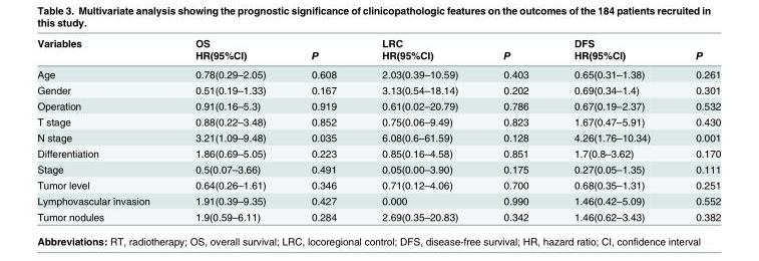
<table><thead><tr><td rowspan="2">Variables</td><td rowspan="2">OS HR(95%CI)</td><td rowspan="2">P</td><td rowspan="2">LRC HR(95%CI)</td><td rowspan="2">P</td><td rowspan="2">DFS HR(95%CI)</td><td rowspan="2">P</td></tr><tr></tr></thead><tbody><tr><td>Age</td><td>0.78(0.29–2.05)</td><td>0.608</td><td>2.03(0.39–10.59)</td><td>0.403</td><td>0.65(0.31–1.38)</td><td>0.261</td></tr><tr><td>Gender</td><td>0.51(0.19–1.33)</td><td>0.167</td><td>3.13(0.54–18.14)</td><td>0.202</td><td>0.69(0.34–1.4)</td><td>0.301</td></tr><tr><td>Operation</td><td>0.91(0.16–5.3)</td><td>0.919</td><td>0.61(0.02–20.79)</td><td>0.786</td><td>0.67(0.19–2.37)</td><td>0.532</td></tr><tr><td>T stage</td><td>0.88(0.22–3.48)</td><td>0.852</td><td>0.75(0.06–9.49)</td><td>0.823</td><td>1.67(0.47–5.91)</td><td>0.430</td></tr><tr><td>N stage</td><td>3.21(1.09–9.48)</td><td>0.035</td><td>6.08(0.6–61.59)</td><td>0.128</td><td>4.26(1.76–10.34)</td><td>0.001</td></tr><tr><td>Differentiation</td><td>1.86(0.69–5.05)</td><td>0.223</td><td>0.85(0.16–4.58)</td><td>0.851</td><td>1.7(0.8–3.62)</td><td>0.170</td></tr><tr><td>Stage</td><td>0.5(0.07–3.66)</td><td>0.491</td><td>0.05(0.00–3.90)</td><td>0.175</td><td>0.27(0.05–1.35)</td><td>0.111</td></tr><tr><td>Tumor level</td><td>0.64(0.26–1.61)</td><td>0.346</td><td>0.71(0.12–4.06)</td><td>0.700</td><td>0.68(0.35–1.31)</td><td>0.251</td></tr><tr><td>Lymphovascular invasion</td><td>1.91(0.39–9.35)</td><td>0.427</td><td>0.000</td><td>0.990</td><td>1.46(0.42–5.09)</td><td>0.552</td></tr><tr><td>Tumor nodules</td><td>1.9(0.59–6.11)</td><td>0.284</td><td>2.69(0.35–20.83)</td><td>0.342</td><td>1.46(0.62–3.43)</td><td>0.382</td></tr></tbody></table>